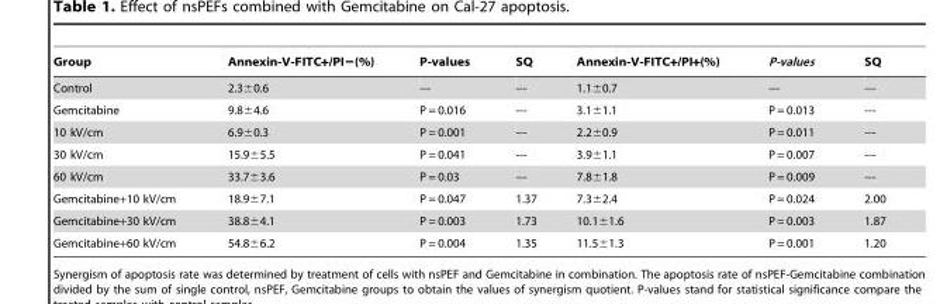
<table><thead><tr><td>Group</td><td>Annexin-V-FITC+/PI−(%)</td><td>P-values</td><td>SQ</td><td>Annexin-V-FITC+/PI+(%)</td><td>P-values</td><td>SQ</td></tr></thead><tbody><tr><td>Control</td><td>2.3±0.6</td><td>---</td><td>---</td><td>1.1±0.7</td><td>---</td><td>---</td></tr><tr><td>Gemcitabine</td><td>9.8±4.6</td><td>P = 0.016</td><td>---</td><td>3.1±1.1</td><td>P = 0.013</td><td>---</td></tr><tr><td>10 kV/cm</td><td>6.9±0.3</td><td>P = 0.001</td><td>---</td><td>2.2±0.9</td><td>P = 0.011</td><td>---</td></tr><tr><td>30 kV/cm</td><td>15.9±5.5</td><td>P = 0.041</td><td>---</td><td>3.9±1.1</td><td>P = 0.007</td><td>---</td></tr><tr><td>60 kV/cm</td><td>33.7±3.6</td><td>P = 0.03</td><td>---</td><td>7.8±1.8</td><td>P = 0.009</td><td>---</td></tr><tr><td>Gemcitabine+10 kV/cm</td><td>18.9±7.1</td><td>P = 0.047</td><td>1.37</td><td>7.3±2.4</td><td>P = 0.024</td><td>2.00</td></tr><tr><td>Gemcitabine+30 kV/cm</td><td>38.8±4.1</td><td>P = 0.003</td><td>1.73</td><td>10.1±1.6</td><td>P = 0.003</td><td>1.87</td></tr><tr><td>Gemcitabine+60 kV/cm</td><td>54.8±6.2</td><td>P = 0.004</td><td>1.35</td><td>11.5±1.3</td><td>P = 0.001</td><td>1.20</td></tr></tbody></table>